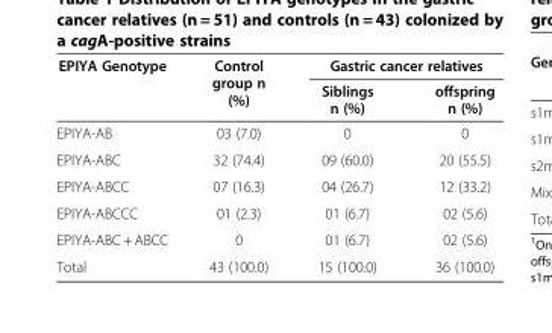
<table><thead><tr><td rowspan="2">EPIYA Genotype</td><td rowspan="2">Control group n (%)</td><td colspan="2">Gastric cancer relatives</td></tr><tr><td>Siblings n (%)</td><td>offspring n (%)</td></tr></thead><tbody><tr><td>EPIYA-AB</td><td>03 (7.0)</td><td>0</td><td>0</td></tr><tr><td>EPIYA-ABC</td><td>32 (74.4)</td><td>09 (60.0)</td><td>20 (55.5)</td></tr><tr><td>EPIYA-ABCC</td><td>07 (16.3)</td><td>04 (26.7)</td><td>12 (33.2)</td></tr><tr><td>EPIYA-ABCCC</td><td>01 (2.3)</td><td>01 (6.7)</td><td>02 (5.6)</td></tr><tr><td>EPIYA-ABC + ABCC</td><td>0</td><td>01 (6.7)</td><td>02 (5.6)</td></tr><tr><td>Total</td><td>43 (100.0)</td><td>15 (100.0)</td><td>36 (100.0)</td></tr></tbody></table>